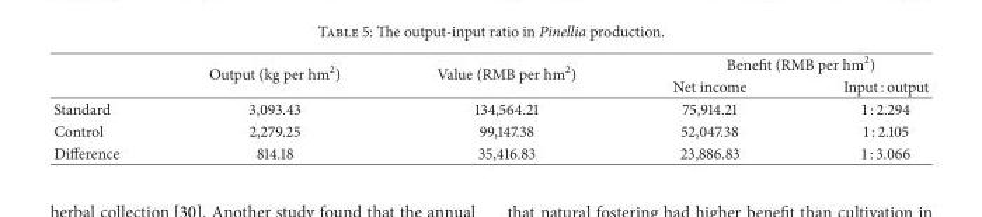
<table><thead><tr><td rowspan="2"></td><td rowspan="2">Output (kg per hm<sup>2</sup>)</td><td rowspan="2">Value (RMB per hm<sup>2</sup>)</td><td colspan="2">Benefit (RMB per hm<sup>2</sup>)</td></tr><tr><td>Net income</td><td>Input : output</td></tr></thead><tbody><tr><td>Standard</td><td>3,093.43</td><td>134,564.21</td><td>75,914.21</td><td>1 : 2.294</td></tr><tr><td>Control</td><td>2,279.25</td><td>99,147.38</td><td>52,047.38</td><td>1 : 2.105</td></tr><tr><td>Difference</td><td>814.18</td><td>35,416.83</td><td>23,886.83</td><td>1 : 3.066</td></tr></tbody></table>